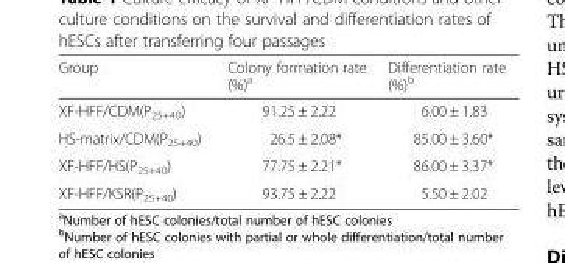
<table><thead><tr><td>Group</td><td>Colony formation rate (%)<sup>a</sup></td><td>Differentiation rate (%)<sup>b</sup></td></tr></thead><tbody><tr><td>XF-HFF/CDM(P<sub>25+40</sub>)</td><td>91.25 ± 2.22</td><td>6.00 ± 1.83</td></tr><tr><td>HS-matrix/CDM(P<sub>25+40</sub>)</td><td>26.5 ± 2.08*</td><td>85.00 ± 3.60*</td></tr><tr><td>XF-HFF/HS(P<sub>25+40</sub>)</td><td>77.75 ± 2.21*</td><td>86.00 ± 3.37*</td></tr><tr><td>XF-HFF/KSR(P<sub>25+40</sub>)</td><td>93.75 ± 2.22</td><td>5.50 ± 2.02</td></tr></tbody></table>